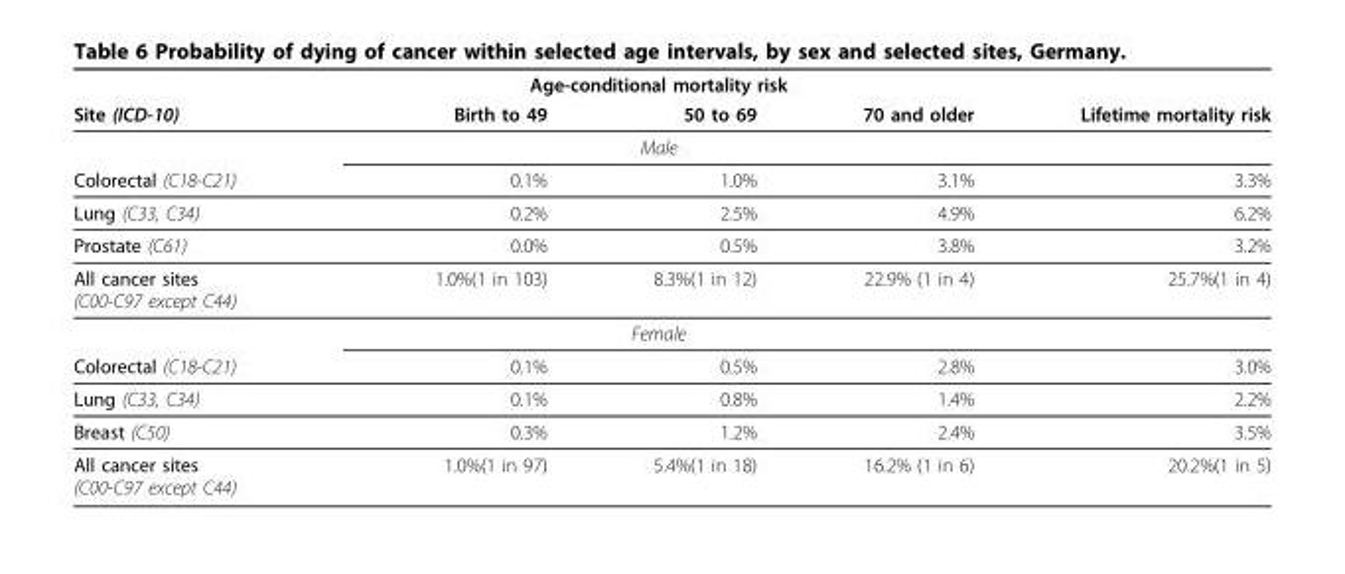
<table><thead><tr><td rowspan="2">Site (ICD-10)</td><td colspan="3">Age-conditional mortality risk</td><td rowspan="2">Lifetime mortality risk</td></tr><tr><td>Birth to 49</td><td>50 to 69</td><td>70 and older</td></tr></thead><tbody><tr><td></td><td colspan="3">Male</td><td></td></tr><tr><td>Colorectal (C18-C21)</td><td>0.1%</td><td>1.0%</td><td>3.1%</td><td>3.3%</td></tr><tr><td>Lung (C33, C34)</td><td>0.2%</td><td>2.5%</td><td>4.9%</td><td>6.2%</td></tr><tr><td>Prostate (C61)</td><td>0.0%</td><td>0.5%</td><td>3.8%</td><td>3.2%</td></tr><tr><td rowspan="2">All cancer sites (C00-C97 except C44)</td><td>1.0%(1 in 103)</td><td>8.3%(1 in 12)</td><td>22.9% (1 in 4)</td><td>25.7%(1 in 4)</td></tr><tr><td colspan="3">Female</td><td></td></tr><tr><td>Colorectal (C18-C21)</td><td>0.1%</td><td>0.5%</td><td>2.8%</td><td>3.0%</td></tr><tr><td>Lung (C33, C34)</td><td>0.1%</td><td>0.8%</td><td>1.4%</td><td>2.2%</td></tr><tr><td>Breast (C50)</td><td>0.3%</td><td>1.2%</td><td>2.4%</td><td>3.5%</td></tr><tr><td>All cancer sites (C00-C97 except C44)</td><td>1.0%(1 in 97)</td><td>5.4%(1 in 18)</td><td>16.2% (1 in 6)</td><td>20.2%(1 in 5)</td></tr></tbody></table>